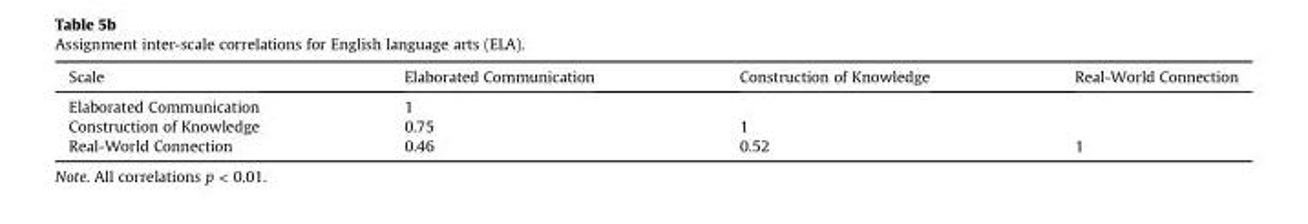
<table><thead><tr><td>Scale</td><td>Elaborated Communication</td><td>Construction of Knowledge</td><td>Real-World Connection</td></tr></thead><tbody><tr><td>Elaborated Communication</td><td>1</td><td></td><td></td></tr><tr><td>Construction of Knowledge</td><td>0.75</td><td>1</td><td></td></tr><tr><td>Real-World Connection</td><td>0.46</td><td>0.52</td><td>1</td></tr></tbody></table>